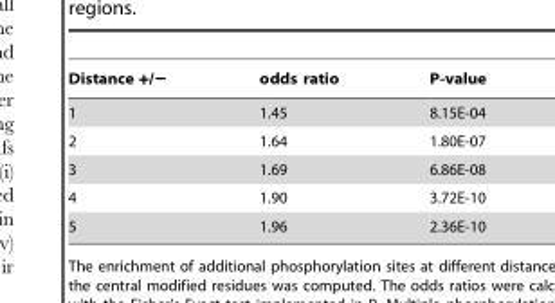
<table><thead><tr><td>Distance +/−</td><td>odds ratio</td><td>P-value</td></tr></thead><tbody><tr><td>1</td><td>1.45</td><td>8.15E-04</td></tr><tr><td>2</td><td>1.64</td><td>1.80E-07</td></tr><tr><td>3</td><td>1.69</td><td>6.86E-08</td></tr><tr><td>4</td><td>1.90</td><td>3.72E-10</td></tr><tr><td>5</td><td>1.96</td><td>2.36E-10</td></tr></tbody></table>